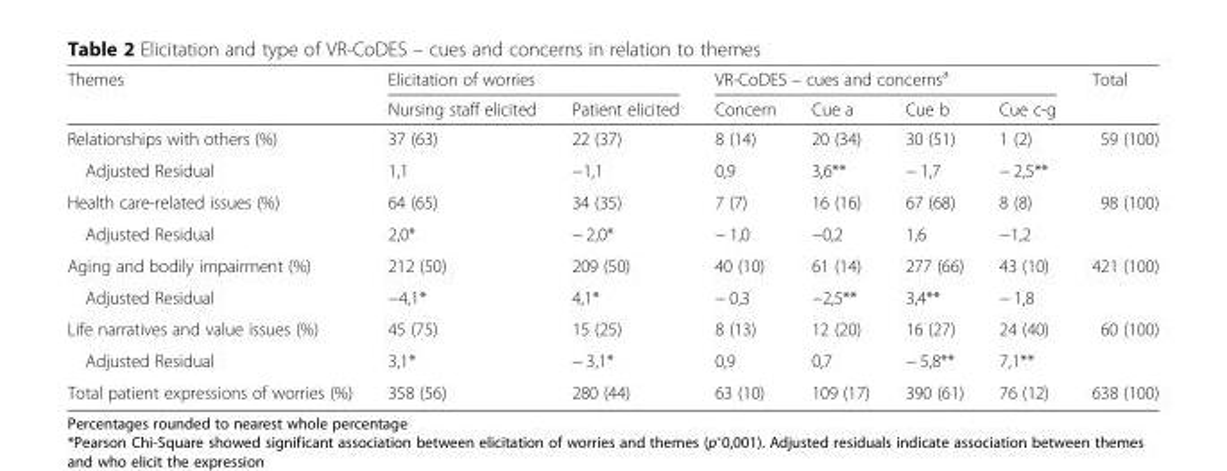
<table><thead><tr><td rowspan="2">Themes</td><td colspan="2">Elicitation of worries</td><td colspan="4">VR-CoDES – cues and concerns<sup>a</sup></td><td rowspan="2">Total</td></tr><tr><td>Nursing staff elicited</td><td>Patient elicited</td><td>Concern</td><td>Cue a</td><td>Cue b</td><td>Cue c-g</td></tr></thead><tbody><tr><td>Relationships with others (%)</td><td>37 (63)</td><td>22 (37)</td><td>8 (14)</td><td>20 (34)</td><td>30 (51)</td><td>1 (2)</td><td>59 (100)</td></tr><tr><td>Adjusted Residual</td><td>1,1</td><td>−1,1</td><td>0,9</td><td>3,6**</td><td>− 1,7</td><td>− 2,5**</td><td></td></tr><tr><td>Health care-related issues (%)</td><td>64 (65)</td><td>34 (35)</td><td>7 (7)</td><td>16 (16)</td><td>67 (68)</td><td>8 (8)</td><td>98 (100)</td></tr><tr><td>Adjusted Residual</td><td>2,0*</td><td>− 2,0*</td><td>− 1,0</td><td>−0,2</td><td>1,6</td><td>−1,2</td><td></td></tr><tr><td>Aging and bodily impairment (%)</td><td>212 (50)</td><td>209 (50)</td><td>40 (10)</td><td>61 (14)</td><td>277 (66)</td><td>43 (10)</td><td>421 (100)</td></tr><tr><td>Adjusted Residual</td><td>−4,1*</td><td>4,1*</td><td>− 0,3</td><td>−2,5**</td><td>3,4**</td><td>− 1,8</td><td></td></tr><tr><td>Life narratives and value issues (%)</td><td>45 (75)</td><td>15 (25)</td><td>8 (13)</td><td>12 (20)</td><td>16 (27)</td><td>24 (40)</td><td>60 (100)</td></tr><tr><td>Adjusted Residual</td><td>3,1*</td><td>− 3,1*</td><td>0,9</td><td>0,7</td><td>− 5,8**</td><td>7,1**</td><td></td></tr><tr><td>Total patient expressions of worries (%)</td><td>358 (56)</td><td>280 (44)</td><td>63 (10)</td><td>109 (17)</td><td>390 (61)</td><td>76 (12)</td><td>638 (100)</td></tr></tbody></table>